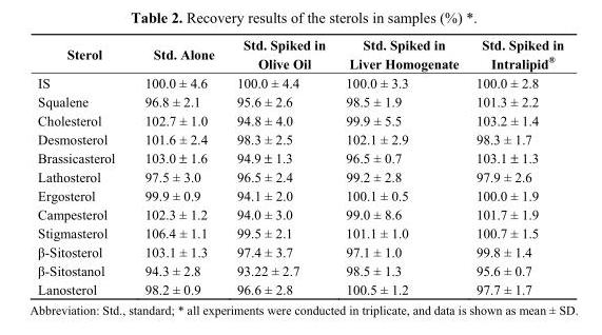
<table><thead><tr><td>Sterol</td><td>Std. Alone</td><td>Std. Spiked in Olive Oil</td><td>Std. Spiked in Liver Homogenate</td><td>Std. Spiked in Intralipid<sup>®</sup></td></tr></thead><tbody><tr><td>IS</td><td>100.0 ± 4.6</td><td>100.0 ± 4.4</td><td>100.0 ± 3.3</td><td>100.0 ± 2.8</td></tr><tr><td>Squalene</td><td>96.8 ± 2.1</td><td>95.6 ± 2.6</td><td>98.5 ± 1.9</td><td>101.3 ± 2.2</td></tr><tr><td>Cholesterol</td><td>102.7 ± 1.0</td><td>94.8 ± 4.0</td><td>99.9 ± 5.5</td><td>103.2 ± 1.4</td></tr><tr><td>Desmosterol</td><td>101.6 ± 2.4</td><td>98.3 ± 2.5</td><td>102.1 ± 2.9</td><td>98.3 ± 1.7</td></tr><tr><td>Brassicasterol</td><td>103.0 ± 1.6</td><td>94.9 ± 1.3</td><td>96.5 ± 0.7</td><td>103.1 ± 1.3</td></tr><tr><td>Lathosterol</td><td>97.5 ± 3.0</td><td>96.5 ± 2.4</td><td>99.2 ± 2.8</td><td>97.9 ± 2.6</td></tr><tr><td>Ergosterol</td><td>99.9 ± 0.9</td><td>94.1 ± 2.0</td><td>100.1 ± 0.5</td><td>100.0 ± 1.9</td></tr><tr><td>Campesterol</td><td>102.3 ± 1.2</td><td>94.0 ± 3.0</td><td>99.0 ± 8.6</td><td>101.7 ± 1.9</td></tr><tr><td>Stigmasterol</td><td>106.4 ± 1.1</td><td>99.5 ± 2.1</td><td>101.1 ± 1.0</td><td>100.7 ± 1.5</td></tr><tr><td>β-Sitosterol</td><td>103.1 ± 1.3</td><td>97.4 ± 3.7</td><td>97.1 ± 1.0</td><td>99.8 ± 1.4</td></tr><tr><td>β-Sitostanol</td><td>94.3 ± 2.8</td><td>93.22 ± 2.7</td><td>98.5 ± 1.3</td><td>95.6 ± 0.7</td></tr><tr><td>Lanosterol</td><td>98.2 ± 0.9</td><td>96.6 ± 2.8</td><td>100.5 ± 1.2</td><td>97.7 ± 1.7</td></tr></tbody></table>